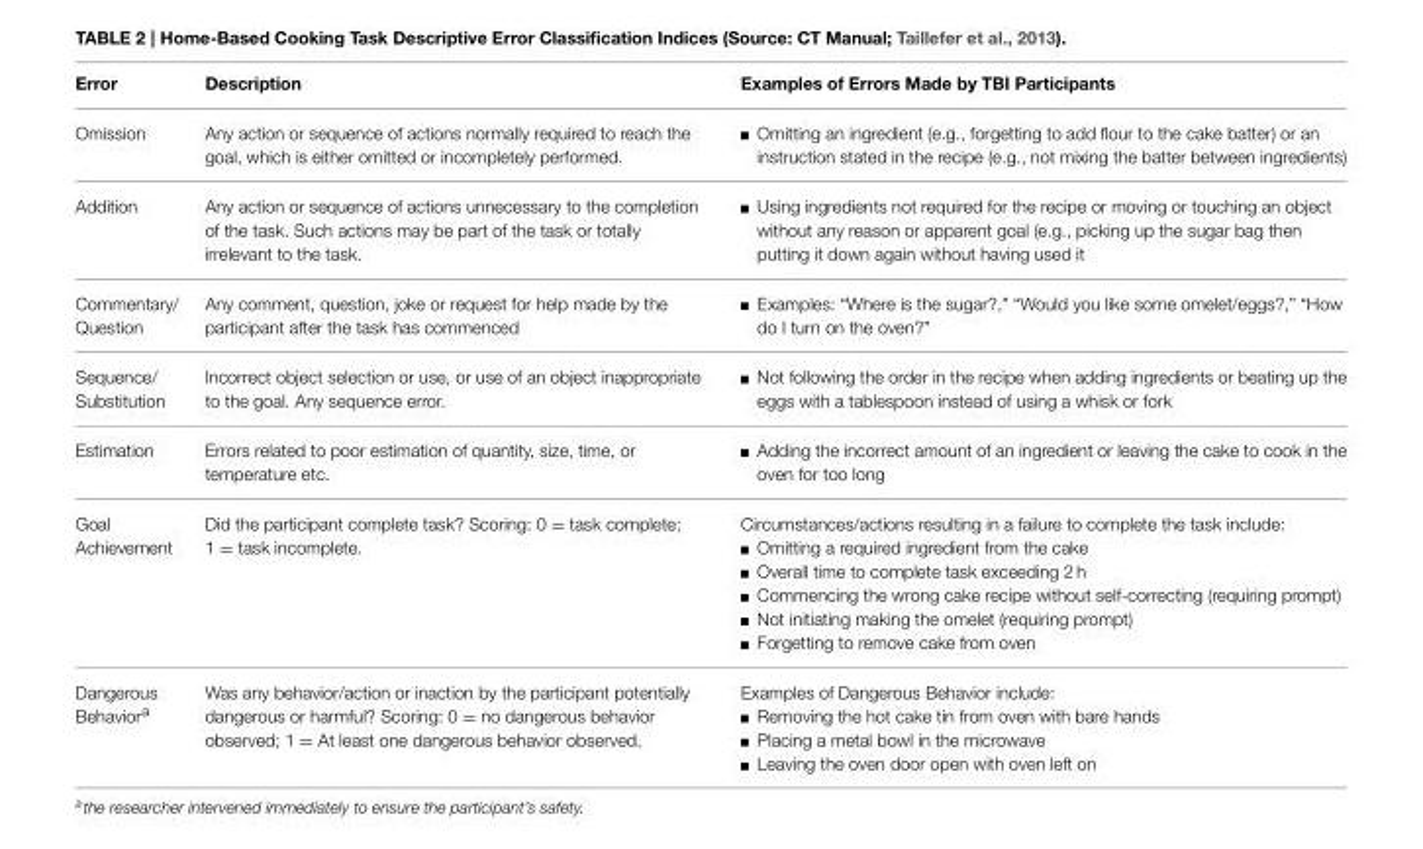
<table><thead><tr><td>Error</td><td>Description</td><td>Examples of Errors Made by TBI Participants</td></tr></thead><tbody><tr><td>Omission</td><td>Any action or sequence of actions normally required to reach the goal, which is either omitted or incompletely performed.</td><td>Omitting an ingredient (e.g., forgetting to add flour to the cake batter) or an instruction stated in the recipe (e.g., not mixing the batter between ingredients)</td></tr><tr><td>Addition</td><td>Any action or sequence of actions unnecessary to the completion of the task. Such actions may be part of the task or totally irrelevant to the task.</td><td>Using ingredients not required for the recipe or moving or touching an object without any reason or apparent goal (e.g., picking up the sugar bag then putting it down again without having used it</td></tr><tr><td>Commentary/ Question</td><td>Any comment, question, joke or request for help made by the participant after the task has commenced</td><td>Examples: “Where is the sugar?,” “Would you like some omelet/eggs?,” “How do I turn on the oven?”</td></tr><tr><td>Sequence/ Substitution</td><td>Incorrect object selection or use, or use of an object inappropriate to the goal. Any sequence error.</td><td>Not following the order in the recipe when adding ingredients or beating up the eggs with a tablespoon instead of using a whisk or fork</td></tr><tr><td>Estimation</td><td>Errors related to poor estimation of quantity, size, time, or temperature etc.</td><td>Adding the incorrect amount of an ingredient or leaving the cake to cook in the oven for too long</td></tr><tr><td>Goal Achievement</td><td>Did the participant complete task? Scoring: 0 = task complete; 1 = task incomplete.</td><td>Circumstances/actions resulting in a failure to complete the task include: Omitting a required ingredient from the cake Overall time to complete task exceeding 2 h Commencing the wrong cake recipe without self-correcting (requiring prompt) Not initiating making the omelet (requiring prompt) Forgetting to remove cake from oven</td></tr><tr><td>Dangerous Behavior<sup>a</sup></td><td>Was any behavior/action or inaction by the participant potentially dangerous or harmful? Scoring: 0 = no dangerous behavior observed; 1 = At least one dangerous behavior observed.</td><td>Examples of Dangerous Behavior include: Removing the hot cake tin from oven with bare hands Placing a metal bowl in the microwave Leaving the oven door open with oven left on</td></tr></tbody></table>